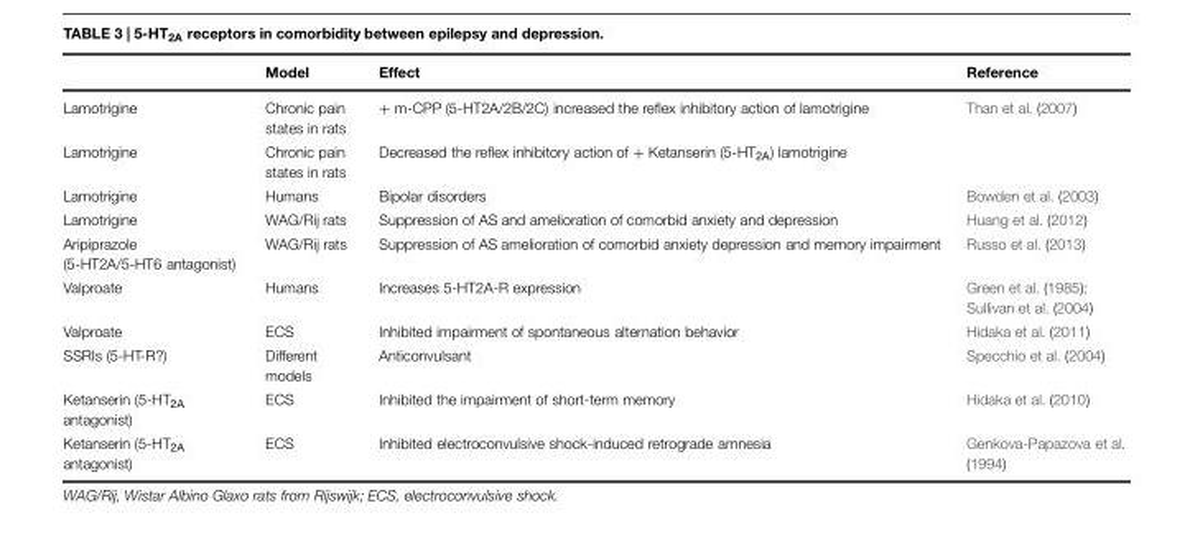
<table><thead><tr><td></td><td>Model</td><td>Effect</td><td>Reference</td></tr></thead><tbody><tr><td>Lamotrigine</td><td>Chronic pain states in rats</td><td>+ m-CPP (5-HT2A/2B/2C) increased the reflex inhibitory action of lamotrigine</td><td>Than et al. (2007)</td></tr><tr><td>Lamotrigine</td><td>Chronic pain states in rats</td><td>Decreased the reflex inhibitory action of + Ketanserin (5-HT<sub>2A</sub>) lamotrigine</td><td></td></tr><tr><td>Lamotrigine</td><td>Humans</td><td>Bipolar disorders</td><td>Bowden et al. (2003)</td></tr><tr><td>Lamotrigine</td><td>WAG/Rij rats</td><td>Suppression of AS and amelioration of comorbid anxiety and depression</td><td>Huang et al. (2012)</td></tr><tr><td>Aripiprazole (5-HT2A/5-HT6 antagonist)</td><td>WAG/Rij rats</td><td>Suppression of AS amelioration of comorbid anxiety depression and memory impairment</td><td>Russo et al. (2013)</td></tr><tr><td>Valproate</td><td>Humans</td><td>Increases 5-HT2A-R expression</td><td>Green et al. (1985); Sullivan et al. (2004)</td></tr><tr><td>Valproate</td><td>ECS</td><td>Inhibited impairment of spontaneous alternation behavior</td><td>Hidaka et al. (2011)</td></tr><tr><td>SSRIs (5-HT-R?)</td><td>Different models</td><td>Anticonvulsant</td><td>Specchio et al. (2004)</td></tr><tr><td>Ketanserin (5-HT<sub>2A</sub> antagonist)</td><td>ECS</td><td>Inhibited the impairment of short-term memory</td><td>Hidaka et al. (2010)</td></tr><tr><td>Ketanserin (5-HT<sub>2A</sub> antagonist)</td><td>ECS</td><td>Inhibited electroconvulsive shock-induced retrograde amnesia</td><td>Genkova-Papazova et al. (1994)</td></tr></tbody></table>